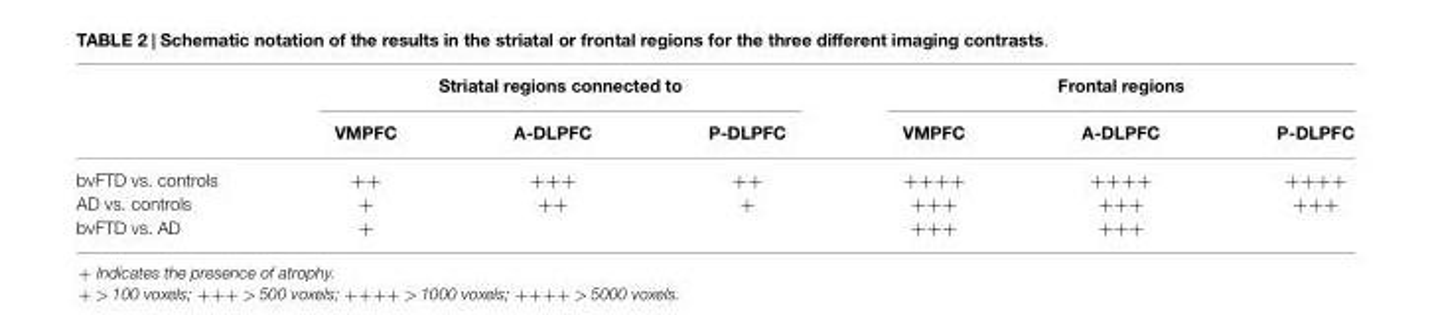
<table><thead><tr><td rowspan="2"></td><td colspan="3">Striatal regions connected to</td><td colspan="3">Frontal regions</td></tr><tr><td>VMPFC</td><td>A-DLPFC</td><td>P-DLPFC</td><td>VMPFC</td><td>A-DLPFC</td><td>P-DLPFC</td></tr></thead><tbody><tr><td>bvFTD vs. controls</td><td>++</td><td>+++</td><td>++</td><td>++++</td><td>++++</td><td>++++</td></tr><tr><td>AD vs. controls</td><td>+</td><td>++</td><td>+</td><td>+++</td><td>+++</td><td>+++</td></tr><tr><td>bvFTD vs. AD</td><td>+</td><td></td><td></td><td>+++</td><td>+++</td><td></td></tr></tbody></table>